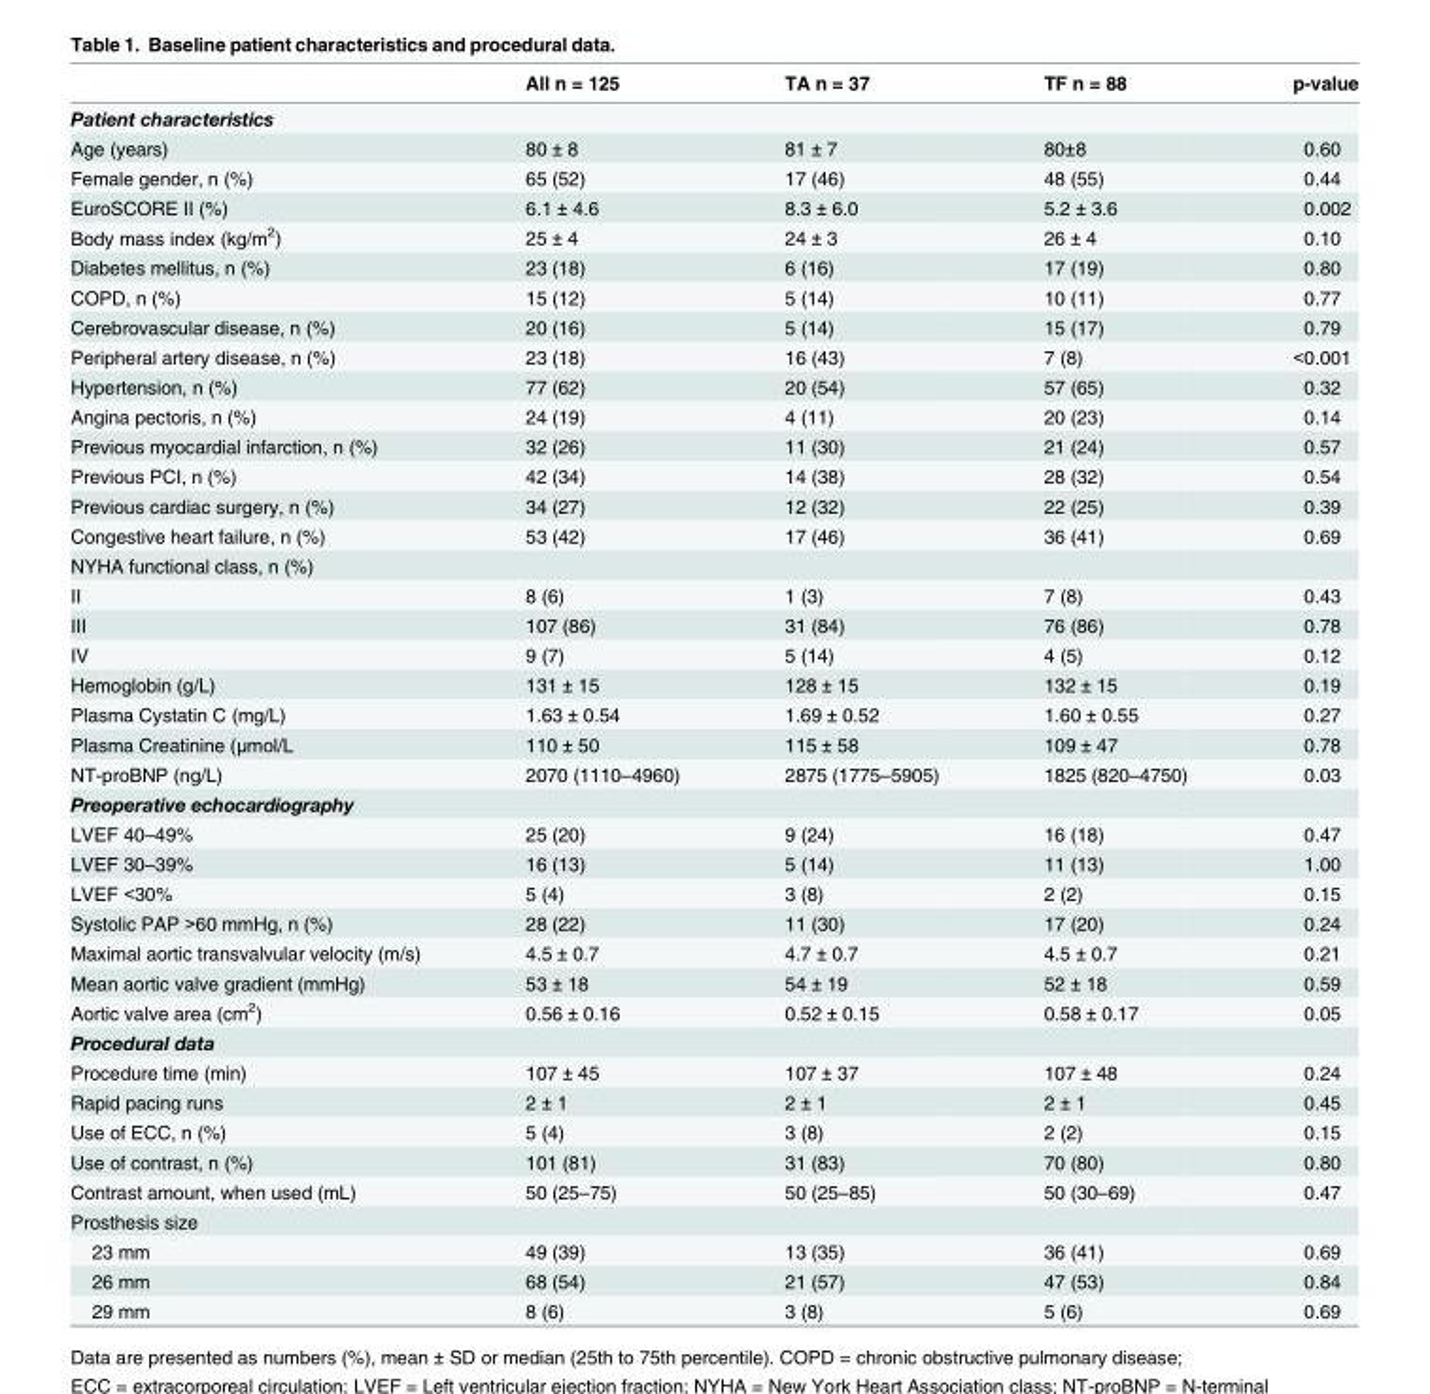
<table><thead><tr><td></td><td>All n = 125</td><td>TA n = 37</td><td>TF n = 88</td><td>p-value</td></tr></thead><tbody><tr><td colspan="5">Patient characteristics</td></tr><tr><td>Age (years)</td><td>80 ± 8</td><td>81 ± 7</td><td>80±8</td><td>0.60</td></tr><tr><td>Female gender, n (%)</td><td>65 (52)</td><td>17 (46)</td><td>48 (55)</td><td>0.44</td></tr><tr><td>EuroSCORE II (%)</td><td>6.1 ± 4.6</td><td>8.3 ± 6.0</td><td>5.2 ± 3.6</td><td>0.002</td></tr><tr><td>Body mass index (kg/m<sup>2</sup>)</td><td>25 ± 4</td><td>24 ± 3</td><td>26 ± 4</td><td>0.10</td></tr><tr><td>Diabetes mellitus, n (%)</td><td>23 (18)</td><td>6 (16)</td><td>17 (19)</td><td>0.80</td></tr><tr><td>COPD, n (%)</td><td>15 (12)</td><td>5 (14)</td><td>10 (11)</td><td>0.77</td></tr><tr><td>Cerebrovascular disease, n (%)</td><td>20 (16)</td><td>5 (14)</td><td>15 (17)</td><td>0.79</td></tr><tr><td>Peripheral artery disease, n (%)</td><td>23 (18)</td><td>16 (43)</td><td>7 (8)</td><td>&lt;0.001</td></tr><tr><td>Hypertension, n (%)</td><td>77 (62)</td><td>20 (54)</td><td>57 (65)</td><td>0.32</td></tr><tr><td>Angina pectoris, n (%)</td><td>24 (19)</td><td>4 (11)</td><td>20 (23)</td><td>0.14</td></tr><tr><td>Previous myocardial infarction, n (%)</td><td>32 (26)</td><td>11 (30)</td><td>21 (24)</td><td>0.57</td></tr><tr><td>Previous PCI, n (%)</td><td>42 (34)</td><td>14 (38)</td><td>28 (32)</td><td>0.54</td></tr><tr><td>Previous cardiac surgery, n (%)</td><td>34 (27)</td><td>12 (32)</td><td>22 (25)</td><td>0.39</td></tr><tr><td>Congestive heart failure, n (%)</td><td>53 (42)</td><td>17 (46)</td><td>36 (41)</td><td>0.69</td></tr><tr><td colspan="5">NYHA functional class, n (%)</td></tr><tr><td>II</td><td>8 (6)</td><td>1 (3)</td><td>7 (8)</td><td>0.43</td></tr><tr><td>III</td><td>107 (86)</td><td>31 (84)</td><td>76 (86)</td><td>0.78</td></tr><tr><td>IV</td><td>9 (7)</td><td>5 (14)</td><td>4 (5)</td><td>0.12</td></tr><tr><td>Hemoglobin (g/L)</td><td>131 ± 15</td><td>128 ± 15</td><td>132 ± 15</td><td>0.19</td></tr><tr><td>Plasma Cystatin C (mg/L)</td><td>1.63 ± 0.54</td><td>1.69 ± 0.52</td><td>1.60 ± 0.55</td><td>0.27</td></tr><tr><td>Plasma Creatinine (μmol/L</td><td>110 ± 50</td><td>115 ± 58</td><td>109 ± 47</td><td>0.78</td></tr><tr><td>NT-proBNP (ng/L)</td><td>2070 (1110–4960)</td><td>2875 (1775–5905)</td><td>1825 (820–4750)</td><td>0.03</td></tr><tr><td colspan="5">Preoperative echocardiography</td></tr><tr><td>LVEF 40–49%</td><td>25 (20)</td><td>9 (24)</td><td>16 (18)</td><td>0.47</td></tr><tr><td>LVEF 30–39%</td><td>16 (13)</td><td>5 (14)</td><td>11 (13)</td><td>1.00</td></tr><tr><td>LVEF &lt;30%</td><td>5 (4)</td><td>3 (8)</td><td>2 (2)</td><td>0.15</td></tr><tr><td>Systolic PAP &gt;60 mmHg, n (%)</td><td>28 (22)</td><td>11 (30)</td><td>17 (20)</td><td>0.24</td></tr><tr><td>Maximal aortic transvalvular velocity (m/s)</td><td>4.5 ± 0.7</td><td>4.7 ± 0.7</td><td>4.5 ± 0.7</td><td>0.21</td></tr><tr><td>Mean aortic valve gradient (mmHg)</td><td>53 ± 18</td><td>54 ± 19</td><td>52 ± 18</td><td>0.59</td></tr><tr><td>Aortic valve area (cm<sup>2</sup>)</td><td>0.56 ± 0.16</td><td>0.52 ± 0.15</td><td>0.58 ± 0.17</td><td>0.05</td></tr><tr><td colspan="5">Procedural data</td></tr><tr><td>Procedure time (min)</td><td>107 ± 45</td><td>107 ± 37</td><td>107 ± 48</td><td>0.24</td></tr><tr><td>Rapid pacing runs</td><td>2 ± 1</td><td>2 ± 1</td><td>2 ± 1</td><td>0.45</td></tr><tr><td>Use of ECC, n (%)</td><td>5 (4)</td><td>3 (8)</td><td>2 (2)</td><td>0.15</td></tr><tr><td>Use of contrast, n (%)</td><td>101 (81)</td><td>31 (83)</td><td>70 (80)</td><td>0.80</td></tr><tr><td>Contrast amount, when used (mL)</td><td>50 (25–75)</td><td>50 (25–85)</td><td>50 (30–69)</td><td>0.47</td></tr><tr><td colspan="5">Prosthesis size</td></tr><tr><td>23 mm</td><td>49 (39)</td><td>13 (35)</td><td>36 (41)</td><td>0.69</td></tr><tr><td>26 mm</td><td>68 (54)</td><td>21 (57)</td><td>47 (53)</td><td>0.84</td></tr><tr><td>29 mm</td><td>8 (6)</td><td>3 (8)</td><td>5 (6)</td><td>0.69</td></tr></tbody></table>